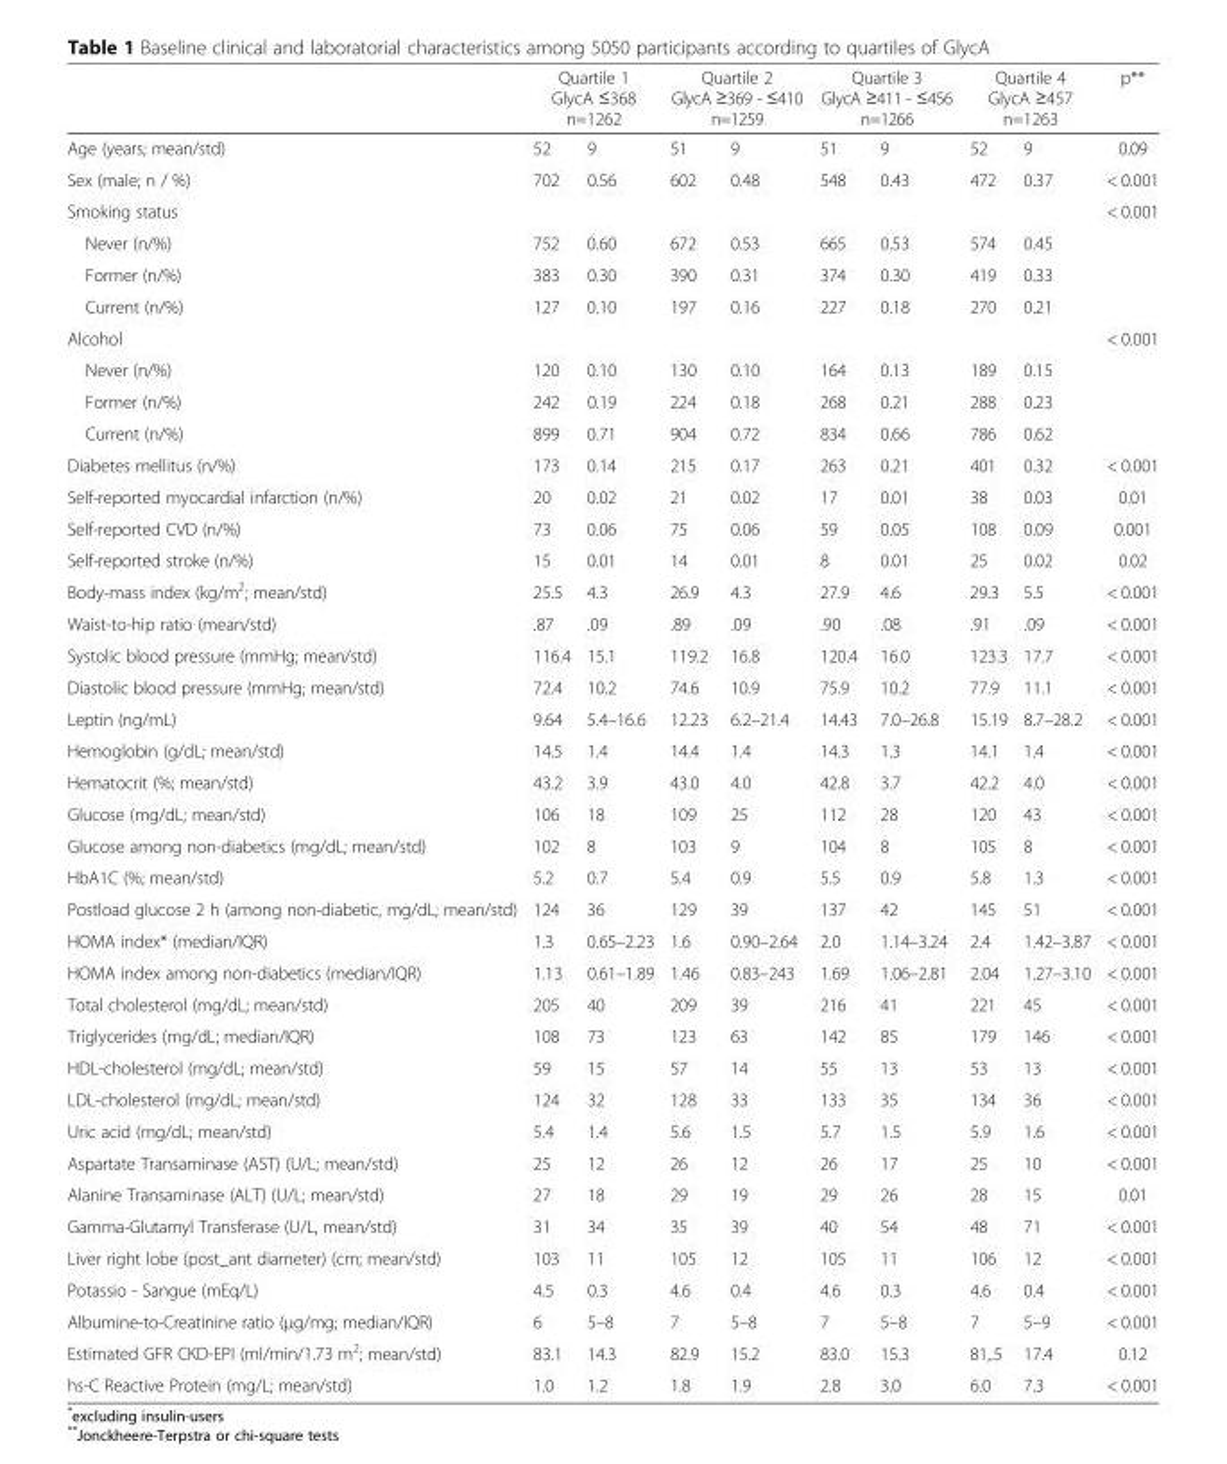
<table><thead><tr><td rowspan="2">Age (years; mean/std)</td><td colspan="2">Quartile 1 GlycA ≤368 n=1262</td><td colspan="2">Quartile 2 GlycA ≥369 - ≤410 n=1259</td><td colspan="2">Quartile 3 GlycA ≥411 - ≤456 n=1266</td><td colspan="2">Quartile 4 GlycA ≥457 n=1263</td><td rowspan="2">p** 0.09</td></tr><tr><td>52</td><td>9</td><td>51</td><td>9</td><td>51</td><td>9</td><td>52</td><td>9</td></tr></thead><tbody><tr><td>Sex (male; n / %)</td><td>702</td><td>0.56</td><td>602</td><td>0.48</td><td>548</td><td>0.43</td><td>472</td><td>0.37</td><td>&lt; 0.001</td></tr><tr><td>Smoking status</td><td></td><td></td><td></td><td></td><td></td><td></td><td></td><td></td><td>&lt; 0.001</td></tr><tr><td>Never (n/%)</td><td>752</td><td>0.60</td><td>672</td><td>0.53</td><td>665</td><td>0.53</td><td>574</td><td>0.45</td><td></td></tr><tr><td>Former (n/%)</td><td>383</td><td>0.30</td><td>390</td><td>0.31</td><td>374</td><td>0.30</td><td>419</td><td>0.33</td><td></td></tr><tr><td>Current (n/%)</td><td>127</td><td>0.10</td><td>197</td><td>0.16</td><td>227</td><td>0.18</td><td>270</td><td>0.21</td><td></td></tr><tr><td>Alcohol</td><td></td><td></td><td></td><td></td><td></td><td></td><td></td><td></td><td>&lt; 0.001</td></tr><tr><td>Never (n/%)</td><td>120</td><td>0.10</td><td>130</td><td>0.10</td><td>164</td><td>0.13</td><td>189</td><td>0.15</td><td></td></tr><tr><td>Former (n/%)</td><td>242</td><td>0.19</td><td>224</td><td>0.18</td><td>268</td><td>0.21</td><td>288</td><td>0.23</td><td></td></tr><tr><td>Current (n/%)</td><td>899</td><td>0.71</td><td>904</td><td>0.72</td><td>834</td><td>0.66</td><td>786</td><td>0.62</td><td></td></tr><tr><td>Diabetes mellitus (n/%)</td><td>173</td><td>0.14</td><td>215</td><td>0.17</td><td>263</td><td>0.21</td><td>401</td><td>0.32</td><td>&lt; 0.001</td></tr><tr><td>Self-reported myocardial infarction (n/%)</td><td>20</td><td>0.02</td><td>21</td><td>0.02</td><td>17</td><td>0.01</td><td>38</td><td>0.03</td><td>0.01</td></tr><tr><td>Self-reported CVD (n/%)</td><td>73</td><td>0.06</td><td>75</td><td>0.06</td><td>59</td><td>0.05</td><td>108</td><td>0.09</td><td>0.001</td></tr><tr><td>Self-reported stroke (n/%)</td><td>15</td><td>0.01</td><td>14</td><td>0.01</td><td>8</td><td>0.01</td><td>25</td><td>0.02</td><td>0.02</td></tr><tr><td>Body-mass index (kg/m<sup>2</sup>; mean/std)</td><td>25.5</td><td>4.3</td><td>26.9</td><td>4.3</td><td>27.9</td><td>4.6</td><td>29.3</td><td>5.5</td><td>&lt; 0.001</td></tr><tr><td>Waist-to-hip ratio (mean/std)</td><td>.87</td><td>.09</td><td>.89</td><td>.09</td><td>.90</td><td>.08</td><td>.91</td><td>.09</td><td>&lt; 0.001</td></tr><tr><td>Systolic blood pressure (mmHg; mean/std)</td><td>116.4</td><td>15.1</td><td>119.2</td><td>16.8</td><td>120.4</td><td>16.0</td><td>123.3</td><td>17.7</td><td>&lt; 0.001</td></tr><tr><td>Diastolic blood pressure (mmHg; mean/std)</td><td>72.4</td><td>10.2</td><td>74.6</td><td>10.9</td><td>75.9</td><td>10.2</td><td>77.9</td><td>11.1</td><td>&lt; 0.001</td></tr><tr><td>Leptin (ng/mL)</td><td>9.64</td><td>5.4–16.6</td><td>12.23</td><td>6.2–21.4</td><td>14.43</td><td>7.0–26.8</td><td>15.19</td><td>8.7–28.2</td><td>&lt; 0.001</td></tr><tr><td>Hemoglobin (g/dL; mean/std)</td><td>14.5</td><td>1.4</td><td>14.4</td><td>1.4</td><td>14.3</td><td>1.3</td><td>14.1</td><td>1.4</td><td>&lt; 0.001</td></tr><tr><td>Hematocrit (%; mean/std)</td><td>43.2</td><td>3.9</td><td>43.0</td><td>4.0</td><td>42.8</td><td>3.7</td><td>42.2</td><td>4.0</td><td>&lt; 0.001</td></tr><tr><td>Glucose (mg/dL; mean/std)</td><td>106</td><td>18</td><td>109</td><td>25</td><td>112</td><td>28</td><td>120</td><td>43</td><td>&lt; 0.001</td></tr><tr><td>Glucose among non-diabetics (mg/dL; mean/std)</td><td>102</td><td>8</td><td>103</td><td>9</td><td>104</td><td>8</td><td>105</td><td>8</td><td>&lt; 0.001</td></tr><tr><td>HbA1C (%; mean/std)</td><td>5.2</td><td>0.7</td><td>5.4</td><td>0.9</td><td>5.5</td><td>0.9</td><td>5.8</td><td>1.3</td><td>&lt; 0.001</td></tr><tr><td>Postload glucose 2 h (among non-diabetic, mg/dL; mean/std)</td><td>124</td><td>36</td><td>129</td><td>39</td><td>137</td><td>42</td><td>145</td><td>51</td><td>&lt; 0.001</td></tr><tr><td>HOMA index* (median/IQR)</td><td>1.3</td><td>0.65–2.23</td><td>1.6</td><td>0.90–2.64</td><td>2.0</td><td>1.14–3.24</td><td>2.4</td><td>1.42–3.87</td><td>&lt; 0.001</td></tr><tr><td>HOMA index among non-diabetics (median/IQR)</td><td>1.13</td><td>0.61–1.89</td><td>1.46</td><td>0.83–243</td><td>1.69</td><td>1.06–2.81</td><td>2.04</td><td>1.27–3.10</td><td>&lt; 0.001</td></tr><tr><td>Total cholesterol (mg/dL; mean/std)</td><td>205</td><td>40</td><td>209</td><td>39</td><td>216</td><td>41</td><td>221</td><td>45</td><td>&lt; 0.001</td></tr><tr><td>Triglycerides (mg/dL; median/IQR)</td><td>108</td><td>73</td><td>123</td><td>63</td><td>142</td><td>85</td><td>179</td><td>146</td><td>&lt; 0.001</td></tr><tr><td>HDL-cholesterol (mg/dL; mean/std)</td><td>59</td><td>15</td><td>57</td><td>14</td><td>55</td><td>13</td><td>53</td><td>13</td><td>&lt; 0.001</td></tr><tr><td>LDL-cholesterol (mg/dL; mean/std)</td><td>124</td><td>32</td><td>128</td><td>33</td><td>133</td><td>35</td><td>134</td><td>36</td><td>&lt; 0.001</td></tr><tr><td>Uric acid (mg/dL; mean/std)</td><td>5.4</td><td>1.4</td><td>5.6</td><td>1.5</td><td>5.7</td><td>1.5</td><td>5.9</td><td>1.6</td><td>&lt; 0.001</td></tr><tr><td>Aspartate Transaminase (AST) (U/L; mean/std)</td><td>25</td><td>12</td><td>26</td><td>12</td><td>26</td><td>17</td><td>25</td><td>10</td><td>&lt; 0.001</td></tr><tr><td>Alanine Transaminase (ALT) (U/L; mean/std)</td><td>27</td><td>18</td><td>29</td><td>19</td><td>29</td><td>26</td><td>28</td><td>15</td><td>0.01</td></tr><tr><td>Gamma-Glutamyl Transferase (U/L, mean/std)</td><td>31</td><td>34</td><td>35</td><td>39</td><td>40</td><td>54</td><td>48</td><td>71</td><td>&lt; 0.001</td></tr><tr><td>Liver right lobe (post_ant diameter) (cm; mean/std)</td><td>103</td><td>11</td><td>105</td><td>12</td><td>105</td><td>11</td><td>106</td><td>12</td><td>&lt; 0.001</td></tr><tr><td>Potassio - Sangue (mEq/L)</td><td>4.5</td><td>0.3</td><td>4.6</td><td>0.4</td><td>4.6</td><td>0.3</td><td>4.6</td><td>0.4</td><td>&lt; 0.001</td></tr><tr><td>Albumine-to-Creatinine ratio (μg/mg; median/IQR)</td><td>6</td><td>5–8</td><td>7</td><td>5–8</td><td>7</td><td>5–8</td><td>7</td><td>5–9</td><td>&lt; 0.001</td></tr><tr><td>Estimated GFR CKD-EPI (ml/min/1.73 m<sup>2</sup>; mean/std)</td><td>83.1</td><td>14.3</td><td>82.9</td><td>15.2</td><td>83.0</td><td>15.3</td><td>81,.5</td><td>17.4</td><td>0.12</td></tr><tr><td>hs-C Reactive Protein (mg/L; mean/std)</td><td>1.0</td><td>1.2</td><td>1.8</td><td>1.9</td><td>2.8</td><td>3.0</td><td>6.0</td><td>7.3</td><td>&lt; 0.001</td></tr></tbody></table>